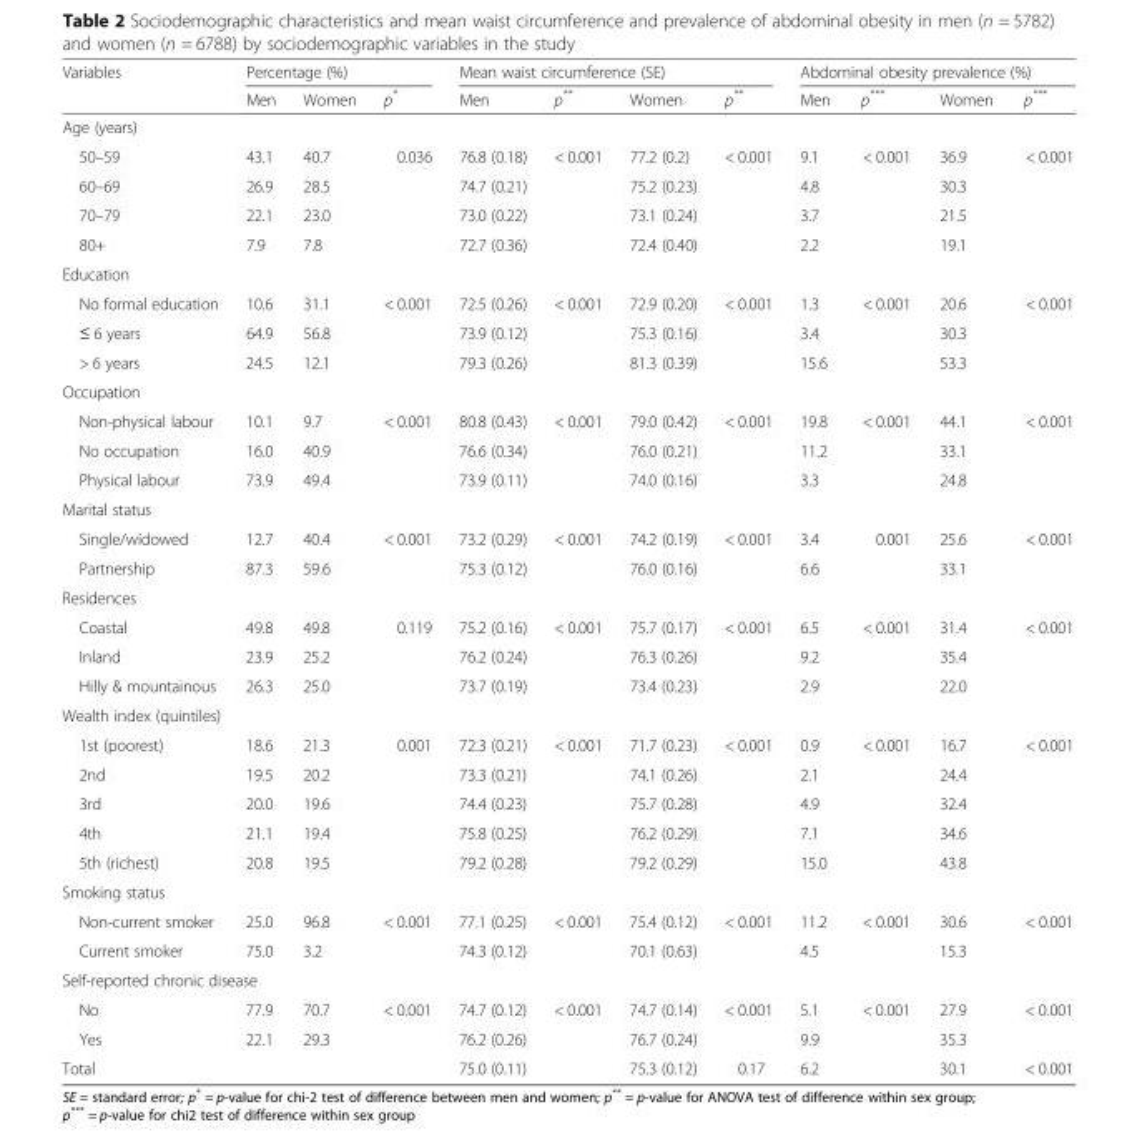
<table><thead><tr><td rowspan="2">Variables</td><td colspan="3">Percentage (%)</td><td colspan="4">Mean waist circumference (SE)</td><td colspan="4">Abdominal obesity prevalence (%)</td></tr><tr><td>Men</td><td>Women</td><td>p*</td><td>Men</td><td>p**</td><td>Women</td><td>p**</td><td>Men</td><td>p***</td><td>Women</td><td>p***</td></tr></thead><tbody><tr><td colspan="12">Age (years)</td></tr><tr><td>50–59</td><td>43.1</td><td>40.7</td><td>0.036</td><td>76.8 (0.18)</td><td>&lt; 0.001</td><td>77.2 (0.2)</td><td>&lt; 0.001</td><td>9.1</td><td>&lt; 0.001</td><td>36.9</td><td>&lt; 0.001</td></tr><tr><td>60–69</td><td>26.9</td><td>28.5</td><td></td><td>74.7 (0.21)</td><td></td><td>75.2 (0.23)</td><td></td><td>4.8</td><td></td><td>30.3</td><td></td></tr><tr><td>70–79</td><td>22.1</td><td>23.0</td><td></td><td>73.0 (0.22)</td><td></td><td>73.1 (0.24)</td><td></td><td>3.7</td><td></td><td>21.5</td><td></td></tr><tr><td>80+</td><td>7.9</td><td>7.8</td><td></td><td>72.7 (0.36)</td><td></td><td>72.4 (0.40)</td><td></td><td>2.2</td><td></td><td>19.1</td><td></td></tr><tr><td colspan="12">Education</td></tr><tr><td>No formal education</td><td>10.6</td><td>31.1</td><td>&lt; 0.001</td><td>72.5 (0.26)</td><td>&lt; 0.001</td><td>72.9 (0.20)</td><td>&lt; 0.001</td><td>1.3</td><td>&lt; 0.001</td><td>20.6</td><td>&lt; 0.001</td></tr><tr><td>≤ 6 years</td><td>64.9</td><td>56.8</td><td></td><td>73.9 (0.12)</td><td></td><td>75.3 (0.16)</td><td></td><td>3.4</td><td></td><td>30.3</td><td></td></tr><tr><td>&gt; 6 years</td><td>24.5</td><td>12.1</td><td></td><td>79.3 (0.26)</td><td></td><td>81.3 (0.39)</td><td></td><td>15.6</td><td></td><td>53.3</td><td></td></tr><tr><td colspan="12">Occupation</td></tr><tr><td>Non-physical labour</td><td>10.1</td><td>9.7</td><td>&lt; 0.001</td><td>80.8 (0.43)</td><td>&lt; 0.001</td><td>79.0 (0.42)</td><td>&lt; 0.001</td><td>19.8</td><td>&lt; 0.001</td><td>44.1</td><td>&lt; 0.001</td></tr><tr><td>No occupation</td><td>16.0</td><td>40.9</td><td></td><td>76.6 (0.34)</td><td></td><td>76.0 (0.21)</td><td></td><td>11.2</td><td></td><td>33.1</td><td></td></tr><tr><td>Physical labour</td><td>73.9</td><td>49.4</td><td></td><td>73.9 (0.11)</td><td></td><td>74.0 (0.16)</td><td></td><td>3.3</td><td></td><td>24.8</td><td></td></tr><tr><td colspan="12">Marital status</td></tr><tr><td>Single/widowed</td><td>12.7</td><td>40.4</td><td>&lt; 0.001</td><td>73.2 (0.29)</td><td>&lt; 0.001</td><td>74.2 (0.19)</td><td>&lt; 0.001</td><td>3.4</td><td>0.001</td><td>25.6</td><td>&lt; 0.001</td></tr><tr><td>Partnership</td><td>87.3</td><td>59.6</td><td></td><td>75.3 (0.12)</td><td></td><td>76.0 (0.16)</td><td></td><td>6.6</td><td></td><td>33.1</td><td></td></tr><tr><td colspan="12">Residences</td></tr><tr><td>Coastal</td><td>49.8</td><td>49.8</td><td>0.119</td><td>75.2 (0.16)</td><td>&lt; 0.001</td><td>75.7 (0.17)</td><td>&lt; 0.001</td><td>6.5</td><td>&lt; 0.001</td><td>31.4</td><td>&lt; 0.001</td></tr><tr><td>Inland</td><td>23.9</td><td>25.2</td><td></td><td>76.2 (0.24)</td><td></td><td>76.3 (0.26)</td><td></td><td>9.2</td><td></td><td>35.4</td><td></td></tr><tr><td>Hilly &amp; mountainous</td><td>26.3</td><td>25.0</td><td></td><td>73.7 (0.19)</td><td></td><td>73.4 (0.23)</td><td></td><td>2.9</td><td></td><td>22.0</td><td></td></tr><tr><td colspan="12">Wealth index (quintiles)</td></tr><tr><td>1st (poorest)</td><td>18.6</td><td>21.3</td><td>0.001</td><td>72.3 (0.21)</td><td>&lt; 0.001</td><td>71.7 (0.23)</td><td>&lt; 0.001</td><td>0.9</td><td>&lt; 0.001</td><td>16.7</td><td>&lt; 0.001</td></tr><tr><td>2nd</td><td>19.5</td><td>20.2</td><td></td><td>73.3 (0.21)</td><td></td><td>74.1 (0.26)</td><td></td><td>2.1</td><td></td><td>24.4</td><td></td></tr><tr><td>3rd</td><td>20.0</td><td>19.6</td><td></td><td>74.4 (0.23)</td><td></td><td>75.7 (0.28)</td><td></td><td>4.9</td><td></td><td>32.4</td><td></td></tr><tr><td>4th</td><td>21.1</td><td>19.4</td><td></td><td>75.8 (0.25)</td><td></td><td>76.2 (0.29)</td><td></td><td>7.1</td><td></td><td>34.6</td><td></td></tr><tr><td>5th (richest)</td><td>20.8</td><td>19.5</td><td></td><td>79.2 (0.28)</td><td></td><td>79.2 (0.29)</td><td></td><td>15.0</td><td></td><td>43.8</td><td></td></tr><tr><td colspan="12">Smoking status</td></tr><tr><td>Non-current smoker</td><td>25.0</td><td>96.8</td><td>&lt; 0.001</td><td>77.1 (0.25)</td><td>&lt; 0.001</td><td>75.4 (0.12)</td><td>&lt; 0.001</td><td>11.2</td><td>&lt; 0.001</td><td>30.6</td><td>&lt; 0.001</td></tr><tr><td>Current smoker</td><td>75.0</td><td>3.2</td><td></td><td>74.3 (0.12)</td><td></td><td>70.1 (0.63)</td><td></td><td>4.5</td><td></td><td>15.3</td><td></td></tr><tr><td colspan="12">Self-reported chronic disease</td></tr><tr><td>No</td><td>77.9</td><td>70.7</td><td>&lt; 0.001</td><td>74.7 (0.12)</td><td>&lt; 0.001</td><td>74.7 (0.14)</td><td>&lt; 0.001</td><td>5.1</td><td>&lt; 0.001</td><td>27.9</td><td>&lt; 0.001</td></tr><tr><td>Yes</td><td>22.1</td><td>29.3</td><td></td><td>76.2 (0.26)</td><td></td><td>76.7 (0.24)</td><td></td><td>9.9</td><td></td><td>35.3</td><td></td></tr><tr><td>Total</td><td></td><td></td><td></td><td>75.0 (0.11)</td><td></td><td>75.3 (0.12)</td><td>0.17</td><td>6.2</td><td></td><td>30.1</td><td>&lt; 0.001</td></tr></tbody></table>